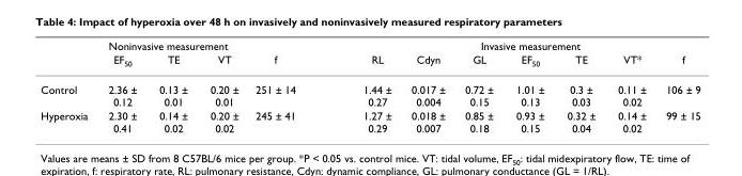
<table><thead><tr><td colspan="5">Noninvasive measurement</td><td colspan="7">Invasive measurement</td></tr><tr><td></td><td>EF<sub>50</sub></td><td>TE</td><td>VT</td><td>f</td><td>RL</td><td>Cdyn</td><td>GL</td><td>EF<sub>50</sub></td><td>TE</td><td>VT*</td><td>f</td></tr></thead><tbody><tr><td>Control</td><td>2.36 ± 0.12</td><td>0.13 ± 0.01</td><td>0.20 ± 0.01</td><td>251 ± 14</td><td>1.44 ± 0.27</td><td>0.017 ± 0.004</td><td>0.72 ± 0.15</td><td>1.01 ± 0.13</td><td>0.3 ± 0.03</td><td>0.11 ± 0.02</td><td>106 ± 9</td></tr><tr><td>Hyperoxia</td><td>2.30 ± 0.41</td><td>0.14 ± 0.02</td><td>0.20 ± 0.02</td><td>245 ± 41</td><td>1.27 ± 0.29</td><td>0.018 ± 0.007</td><td>0.85 ± 0.18</td><td>0.93 ± 0.15</td><td>0.32 ± 0.04</td><td>0.14 ± 0.02</td><td>99 ± 15</td></tr></tbody></table>